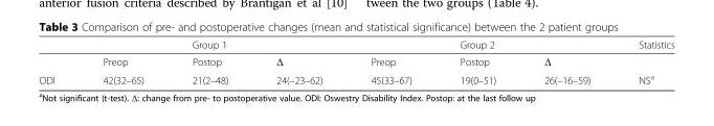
<table><thead><tr><td></td><td></td><td>Group 1</td><td></td><td></td><td>Group 2</td><td></td><td>Statistics</td></tr></thead><tbody><tr><td></td><td>Preop</td><td>Postop</td><td>Δ</td><td>Preop</td><td>Postop</td><td>Δ</td><td></td></tr><tr><td>ODI</td><td>42(32–65)</td><td>21(2–48)</td><td>24(–23–62)</td><td>45(33–67)</td><td>19(0–51)</td><td>26(–16–59)</td><td>NS<sup>a</sup></td></tr></tbody></table>